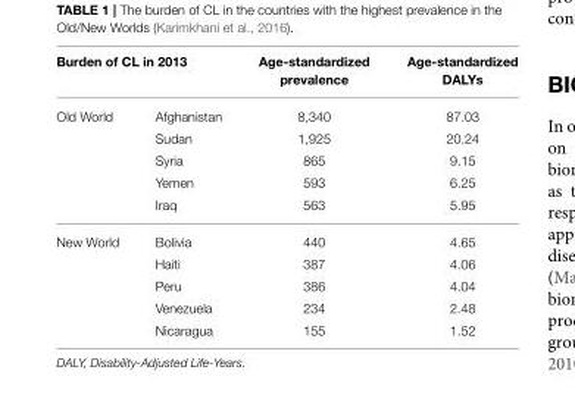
<table><thead><tr><td colspan="2">Burden of CL in 2013</td><td rowspan="2">Age-standardized prevalence 8,340</td><td rowspan="2">Age-standardized DALYs 87.03</td></tr><tr><td>Old World</td><td>Afghanistan</td></tr></thead><tbody><tr><td></td><td>Sudan</td><td>1,925</td><td>20.24</td></tr><tr><td></td><td>Syria</td><td>865</td><td>9.15</td></tr><tr><td></td><td>Yemen</td><td>593</td><td>6.25</td></tr><tr><td></td><td>Iraq</td><td>563</td><td>5.95</td></tr><tr><td rowspan="5">New World</td><td>Bolivia</td><td>440</td><td>4.65</td></tr><tr><td>Haiti</td><td>387</td><td>4.06</td></tr><tr><td>Peru</td><td>386</td><td>4.04</td></tr><tr><td>Venezuela</td><td>234</td><td>2.48</td></tr><tr><td>Nicaragua</td><td>155</td><td>1.52</td></tr></tbody></table>